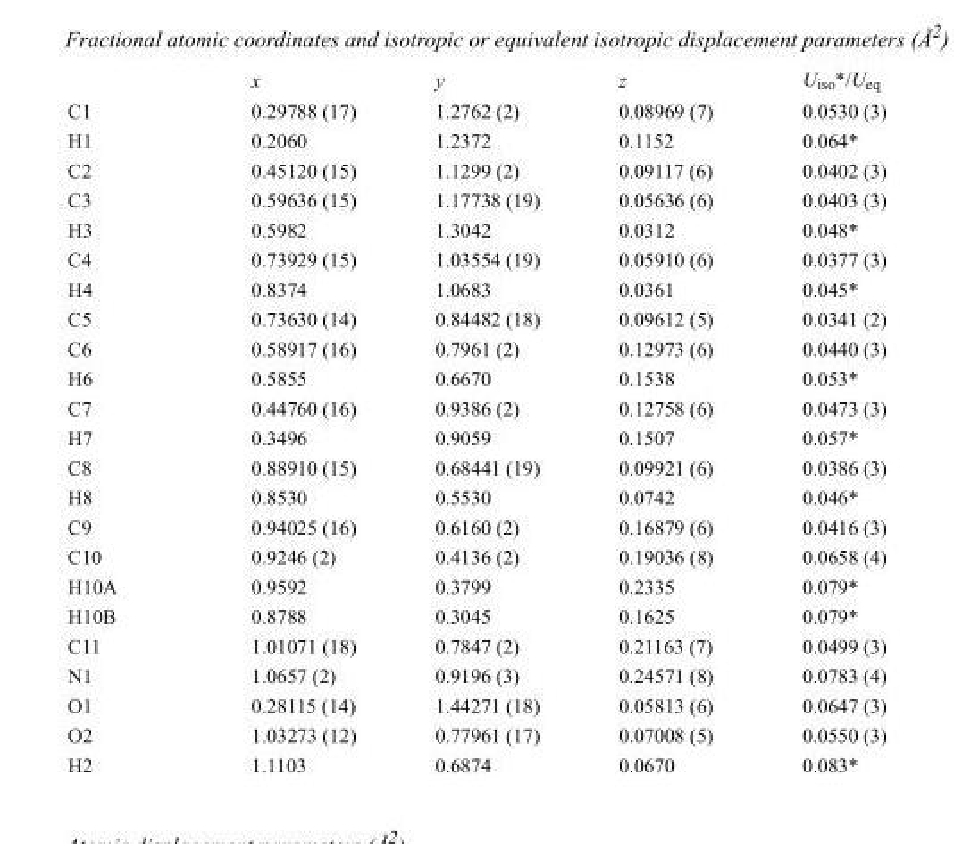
<table><thead><tr><td></td><td>x</td><td>y</td><td>z</td><td>U<sub>iso</sub>*/U<sub>eq</sub></td></tr></thead><tbody><tr><td>C1</td><td>0.29788 (17)</td><td>1.2762 (2)</td><td>0.08969 (7)</td><td>0.0530 (3)</td></tr><tr><td>H1</td><td>0.2060</td><td>1.2372</td><td>0.1152</td><td>0.064*</td></tr><tr><td>C2</td><td>0.45120 (15)</td><td>1.1299 (2)</td><td>0.09117 (6)</td><td>0.0402 (3)</td></tr><tr><td>C3</td><td>0.59636 (15)</td><td>1.17738 (19)</td><td>0.05636 (6)</td><td>0.0403 (3)</td></tr><tr><td>H3</td><td>0.5982</td><td>1.3042</td><td>0.0312</td><td>0.048*</td></tr><tr><td>C4</td><td>0.73929 (15)</td><td>1.03554 (19)</td><td>0.05910 (6)</td><td>0.0377 (3)</td></tr><tr><td>H4</td><td>0.8374</td><td>1.0683</td><td>0.0361</td><td>0.045*</td></tr><tr><td>C5</td><td>0.73630 (14)</td><td>0.84482 (18)</td><td>0.09612 (5)</td><td>0.0341 (2)</td></tr><tr><td>C6</td><td>0.58917 (16)</td><td>0.7961 (2)</td><td>0.12973 (6)</td><td>0.0440 (3)</td></tr><tr><td>H6</td><td>0.5855</td><td>0.6670</td><td>0.1538</td><td>0.053*</td></tr><tr><td>C7</td><td>0.44760 (16)</td><td>0.9386 (2)</td><td>0.12758 (6)</td><td>0.0473 (3)</td></tr><tr><td>H7</td><td>0.3496</td><td>0.9059</td><td>0.1507</td><td>0.057*</td></tr><tr><td>C8</td><td>0.88910 (15)</td><td>0.68441 (19)</td><td>0.09921 (6)</td><td>0.0386 (3)</td></tr><tr><td>H8</td><td>0.8530</td><td>0.5530</td><td>0.0742</td><td>0.046*</td></tr><tr><td>C9</td><td>0.94025 (16)</td><td>0.6160 (2)</td><td>0.16879 (6)</td><td>0.0416 (3)</td></tr><tr><td>C10</td><td>0.9246 (2)</td><td>0.4136 (2)</td><td>0.19036 (8)</td><td>0.0658 (4)</td></tr><tr><td>H10A</td><td>0.9592</td><td>0.3799</td><td>0.2335</td><td>0.079*</td></tr><tr><td>H10B</td><td>0.8788</td><td>0.3045</td><td>0.1625</td><td>0.079*</td></tr><tr><td>C11</td><td>1.01071 (18)</td><td>0.7847 (2)</td><td>0.21163 (7)</td><td>0.0499 (3)</td></tr><tr><td>N1</td><td>1.0657 (2)</td><td>0.9196 (3)</td><td>0.24571 (8)</td><td>0.0783 (4)</td></tr><tr><td>O1</td><td>0.28115 (14)</td><td>1.44271 (18)</td><td>0.05813 (6)</td><td>0.0647 (3)</td></tr><tr><td>O2</td><td>1.03273 (12)</td><td>0.77961 (17)</td><td>0.07008 (5)</td><td>0.0550 (3)</td></tr><tr><td>H2</td><td>1.1103</td><td>0.6874</td><td>0.0670</td><td>0.083*</td></tr></tbody></table>